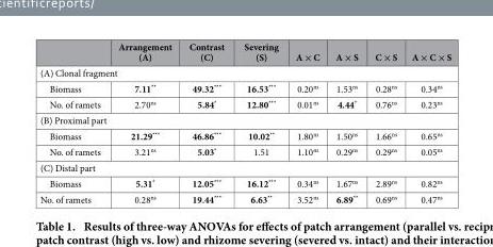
<table><thead><tr><td></td><td>Arrangement (A)</td><td>Contrast (C)</td><td>Severing (S)</td><td>A × C</td><td>A × S</td><td>C × S</td><td>A × C × S</td></tr></thead><tbody><tr><td colspan="8">(A) Clonal fragment</td></tr><tr><td>Biomass</td><td>7.11**</td><td>49.32***</td><td>16.53***</td><td>0.20<sup>ns</sup></td><td>1.53<sup>ns</sup></td><td>0.28<sup>ns</sup></td><td>0.34<sup>ns</sup></td></tr><tr><td>No. of ramets</td><td>2.70<sup>ns</sup></td><td>5.84*</td><td>12.80***</td><td>0.01<sup>ns</sup></td><td>4.44*</td><td>0.76<sup>ns</sup></td><td>0.23<sup>ns</sup></td></tr><tr><td colspan="8">(B) Proximal part</td></tr><tr><td>Biomass</td><td>21.29***</td><td>46.86***</td><td>10.02**</td><td>1.80<sup>ns</sup></td><td>1.50<sup>ns</sup></td><td>1.66<sup>ns</sup></td><td>0.65<sup>ns</sup></td></tr><tr><td>No. of ramets</td><td>3.21<sup>ns</sup></td><td>5.03*</td><td>1.51</td><td>1.10<sup>ns</sup></td><td>0.29<sup>ns</sup></td><td>0.29<sup>ns</sup></td><td>0.05<sup>ns</sup></td></tr><tr><td colspan="8">(C) Distal part</td></tr><tr><td>Biomass</td><td>5.31*</td><td>12.05***</td><td>16.12***</td><td>0.34<sup>ns</sup></td><td>1.67<sup>ns</sup></td><td>2.89<sup>ns</sup></td><td>0.82<sup>ns</sup></td></tr><tr><td>No. of ramets</td><td>0.28<sup>ns</sup></td><td>19.44***</td><td>6.63**</td><td>3.52<sup>ns</sup></td><td>6.89**</td><td>0.69<sup>ns</sup></td><td>0.47<sup>ns</sup></td></tr></tbody></table>